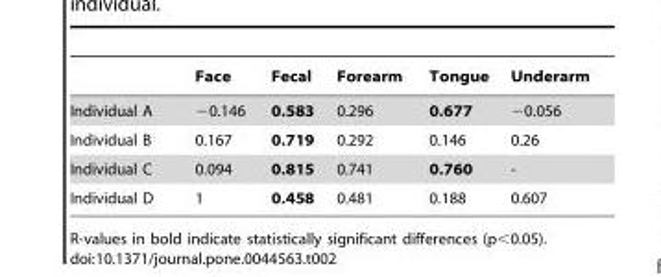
<table><thead><tr><td></td><td>Face</td><td>Fecal</td><td>Forearm</td><td>Tongue</td><td>Underarm</td></tr></thead><tbody><tr><td>Individual A</td><td>−0.146</td><td>0.583</td><td>0.296</td><td>0.677</td><td>−0.056</td></tr><tr><td>Individual B</td><td>0.167</td><td>0.719</td><td>0.292</td><td>0.146</td><td>0.26</td></tr><tr><td>Individual C</td><td>0.094</td><td>0.815</td><td>0.741</td><td>0.760</td><td>-</td></tr><tr><td>Individual D</td><td>1</td><td>0.458</td><td>0.481</td><td>0.188</td><td>0.607</td></tr></tbody></table>